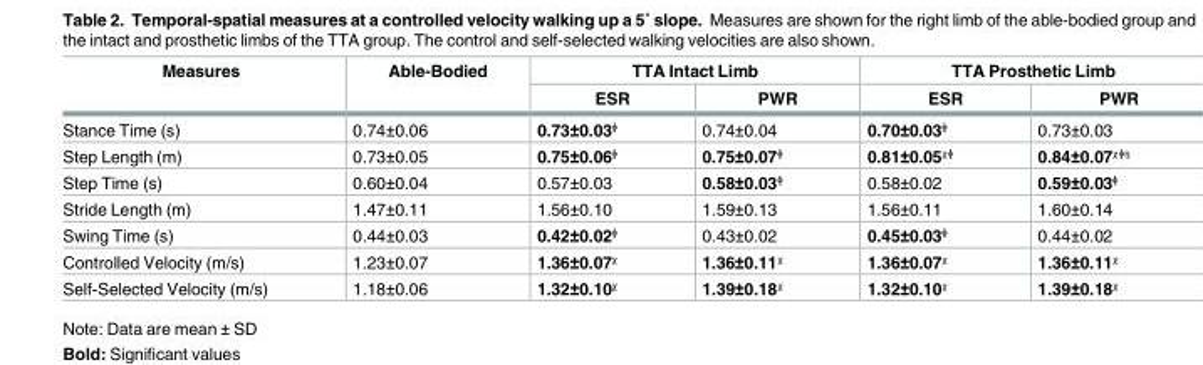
<table><thead><tr><td rowspan="2">Measures</td><td rowspan="2">Able-Bodied</td><td colspan="2">TTA Intact Limb</td><td colspan="2">TTA Prosthetic Limb</td></tr><tr><td>ESR</td><td>PWR</td><td>ESR</td><td>PWR</td></tr></thead><tbody><tr><td>Stance Time (s)</td><td>0.74±0.06</td><td>0.73±0.03ᶲ</td><td>0.74±0.04</td><td>0.70±0.03ᶲ</td><td>0.73±0.03</td></tr><tr><td>Step Length (m)</td><td>0.73±0.05</td><td>0.75±0.06ᶲ</td><td>0.75±0.07ᶲ</td><td>0.81±0.05ᵡᶲ</td><td>0.84±0.07ᵡᶲᵑ</td></tr><tr><td>Step Time (s)</td><td>0.60±0.04</td><td>0.57±0.03</td><td>0.58±0.03ᶲ</td><td>0.58±0.02</td><td>0.59±0.03ᶲ</td></tr><tr><td>Stride Length (m)</td><td>1.47±0.11</td><td>1.56±0.10</td><td>1.59±0.13</td><td>1.56±0.11</td><td>1.60±0.14</td></tr><tr><td>Swing Time (s)</td><td>0.44±0.03</td><td>0.42±0.02ᶲ</td><td>0.43±0.02</td><td>0.45±0.03ᶲ</td><td>0.44±0.02</td></tr><tr><td>Controlled Velocity (m/s)</td><td>1.23±0.07</td><td>1.36±0.07ᵡ</td><td>1.36±0.11ᵡ</td><td>1.36±0.07ᵡ</td><td>1.36±0.11ᵡ</td></tr><tr><td>Self-Selected Velocity (m/s)</td><td>1.18±0.06</td><td>1.32±0.10ᵡ</td><td>1.39±0.18ᵡ</td><td>1.32±0.10ᵡ</td><td>1.39±0.18ᵡ</td></tr></tbody></table>